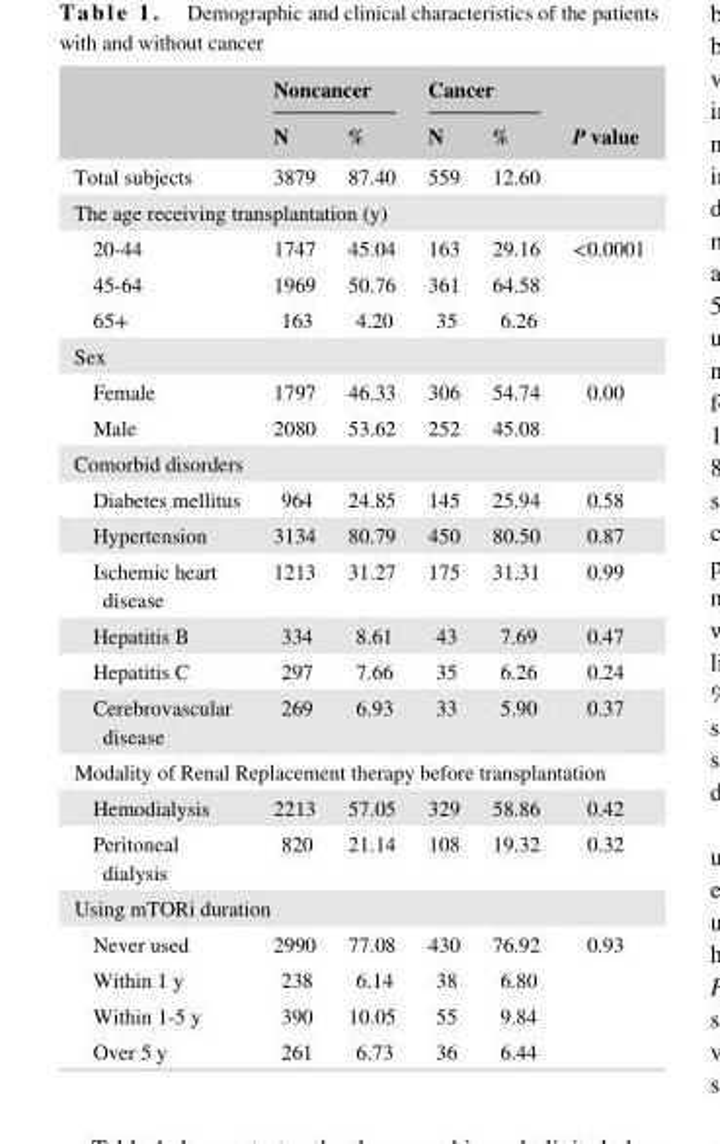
<table><thead><tr><td rowspan="2"></td><td colspan="2">Noncancer</td><td colspan="2">Cancer</td><td rowspan="2">P value</td></tr><tr><td>N</td><td>%</td><td>N</td><td>%</td></tr></thead><tbody><tr><td>Total subjects</td><td>3879</td><td>87.40</td><td>559</td><td>12.60</td><td></td></tr><tr><td colspan="6">The age receiving transplantation (y)</td></tr><tr><td>20- 44</td><td>1747</td><td>45.04</td><td>163</td><td>29.16</td><td rowspan="3">&lt;0.0001</td></tr><tr><td>45- 64</td><td>1969</td><td>50.76</td><td>361</td><td>64.58</td></tr><tr><td>65+</td><td>163</td><td>4.20</td><td>35</td><td>6.26</td></tr><tr><td colspan="6">Sex</td></tr><tr><td>Female</td><td>1797</td><td>46.33</td><td>306</td><td>54.74</td><td rowspan="2">0.00</td></tr><tr><td>Male</td><td>2080</td><td>53.62</td><td>252</td><td>45.08</td></tr><tr><td colspan="6">Comorbid disorders</td></tr><tr><td>Diabetes mellitus</td><td>964</td><td>24.85</td><td>145</td><td>25.94</td><td>0.58</td></tr><tr><td>Hypertension</td><td>3134</td><td>80.79</td><td>450</td><td>80.50</td><td>0.87</td></tr><tr><td>Ischemic heart disease</td><td>1213</td><td>31.27</td><td>175</td><td>31.31</td><td>0.99</td></tr><tr><td>Hepatitis B</td><td>334</td><td>8.61</td><td>43</td><td>7.69</td><td>0.47</td></tr><tr><td>Hepatitis C</td><td>297</td><td>7.66</td><td>35</td><td>6.26</td><td>0.24</td></tr><tr><td>Cerebrovascular disease</td><td>269</td><td>6.93</td><td>33</td><td>5.90</td><td>0.37</td></tr><tr><td colspan="6">Modality of Renal Replacement therapy before transplantation</td></tr><tr><td>Hemodialysis</td><td>2213</td><td>57.05</td><td>329</td><td>58.86</td><td>0.42</td></tr><tr><td>Peritoneal dialysis</td><td>820</td><td>21.14</td><td>108</td><td>19.32</td><td>0.32</td></tr><tr><td colspan="6">Using mTORi duration</td></tr><tr><td>Never used</td><td>2990</td><td>77.08</td><td>430</td><td>76.92</td><td>0.93</td></tr><tr><td>Within 1 y</td><td>238</td><td>6.14</td><td>38</td><td>6.80</td><td></td></tr><tr><td>Within 1- 5 y</td><td>390</td><td>10.05</td><td>55</td><td>9.84</td><td></td></tr><tr><td>Over 5 y</td><td>261</td><td>6.73</td><td>36</td><td>6.44</td><td></td></tr></tbody></table>